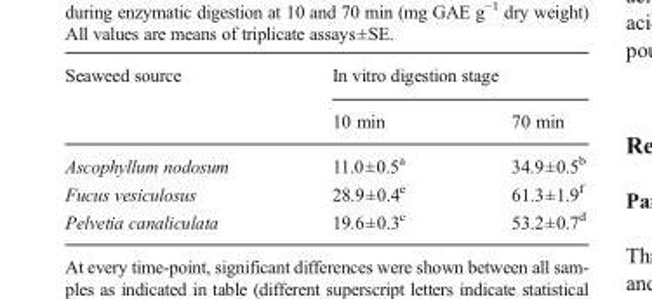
<table><thead><tr><td rowspan="2">Seaweed source</td><td colspan="2">In vitro digestion stage</td></tr><tr><td>10 min</td><td>70 min</td></tr></thead><tbody><tr><td>Ascophyllum nodosum</td><td>11.0±0.5<sup>a</sup></td><td>34.9±0.5<sup>b</sup></td></tr><tr><td>Fucus vesiculosus</td><td>28.9±0.4<sup>e</sup></td><td>61.3±1.9<sup>f</sup></td></tr><tr><td>Pelvetia canaliculata</td><td>19.6±0.3<sup>c</sup></td><td>53.2±0.7<sup>d</sup></td></tr></tbody></table>